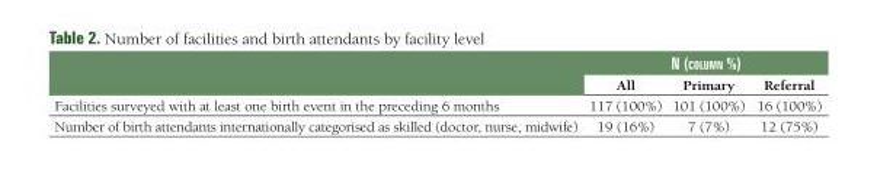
<table><thead><tr><td rowspan="2"></td><td colspan="3">n (column %)</td></tr><tr><td>All</td><td>Primary</td><td>Referral</td></tr></thead><tbody><tr><td>Facilities surveyed with at least one birth event in the preceding 6 months</td><td>117 (100%)</td><td>101 (100%)</td><td>16 (100%)</td></tr><tr><td>Number of birth attendants internationally categorised as skilled (doctor, nurse, midwife)</td><td>19 (16%)</td><td>7 (7%)</td><td>12 (75%)</td></tr></tbody></table>